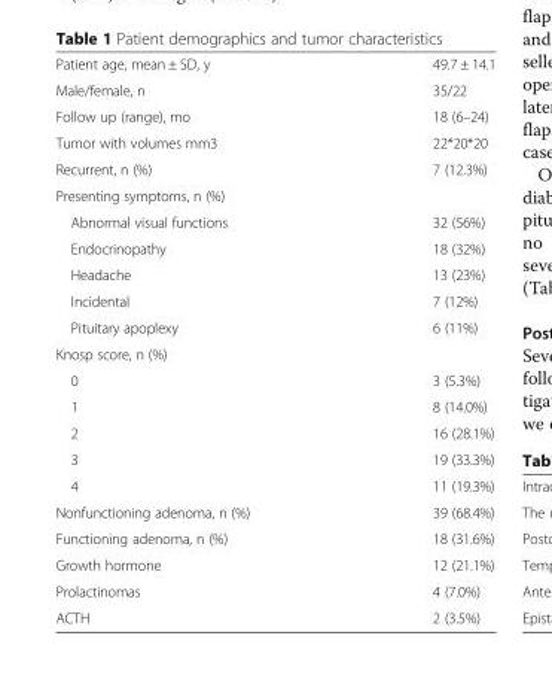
<table><tbody><tr><td>Patient age, mean ± SD, y</td><td>49.7 ± 14.1</td></tr><tr><td>Male/female, n</td><td>35/22</td></tr><tr><td>Follow up (range), mo</td><td>18 (6–24)</td></tr><tr><td>Tumor with volumes mm3</td><td>22*20*20</td></tr><tr><td>Recurrent, n (%)</td><td>7 (12.3%)</td></tr><tr><td colspan="2">Presenting symptoms, n (%)</td></tr><tr><td>Abnormal visual functions</td><td>32 (56%)</td></tr><tr><td>Endocrinopathy</td><td>18 (32%)</td></tr><tr><td>Headache</td><td>13 (23%)</td></tr><tr><td>Incidental</td><td>7 (12%)</td></tr><tr><td>Pituitary apoplexy</td><td>6 (11%)</td></tr><tr><td colspan="2">Knosp score, n (%)</td></tr><tr><td>0</td><td>3 (5.3%)</td></tr><tr><td>1</td><td>8 (14.0%)</td></tr><tr><td>2</td><td>16 (28.1%)</td></tr><tr><td>3</td><td>19 (33.3%)</td></tr><tr><td>4</td><td>11 (19.3%)</td></tr><tr><td>Nonfunctioning adenoma, n (%)</td><td>39 (68.4%)</td></tr><tr><td>Functioning adenoma, n (%)</td><td>18 (31.6%)</td></tr><tr><td>Growth hormone</td><td>12 (21.1%)</td></tr><tr><td>Prolactinomas</td><td>4 (7.0%)</td></tr><tr><td>ACTH</td><td>2 (3.5%)</td></tr></tbody></table>